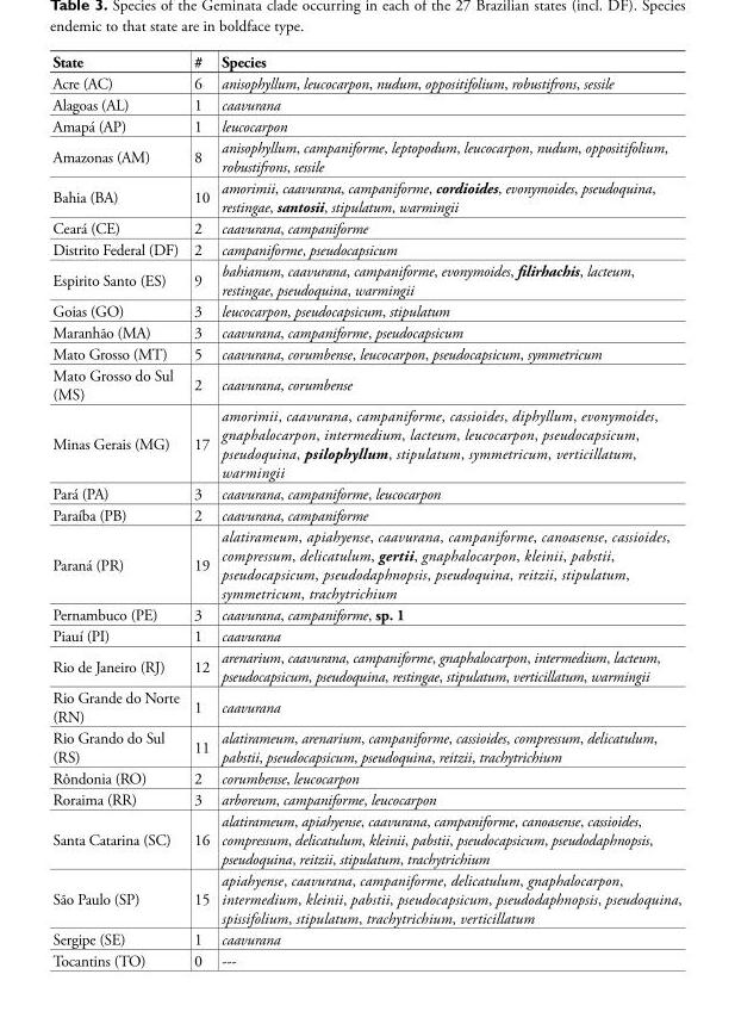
<table><thead><tr><td>State</td><td>#</td><td>Species</td></tr></thead><tbody><tr><td>Acre (AC)</td><td>6</td><td>anisophyllum, leucocarpon, nudum, oppositifolium, robustifrons, sessile</td></tr><tr><td>Alagoas (AL)</td><td>1</td><td>caavurana</td></tr><tr><td>Amapá (AP)</td><td>1</td><td>leucocarpon</td></tr><tr><td>Amazonas (AM)</td><td>8</td><td>anisophyllum, campaniforme, leptopodum, leucocarpon, nudum, oppositifolium, robustifrons, sessile</td></tr><tr><td>Bahia (BA)</td><td>10</td><td>amorimii, caavurana, campaniforme, cordioides, evonymoides, pseudoquina, restingae, santosii, stipulatum, warmingii</td></tr><tr><td>Ceará (CE)</td><td>2</td><td>caavurana, campaniforme</td></tr><tr><td>Distrito Federal (DF)</td><td>2</td><td>campaniforme, pseudocapsicum</td></tr><tr><td>Espirito Santo (ES)</td><td>9</td><td>bahianum, caavurana, campaniforme, evonymoides, fi lirhachis, lacteum, restingae, pseudoquina, warmingii</td></tr><tr><td>Goias (GO)</td><td>3</td><td>leucocarpon, pseudocapsicum, stipulatum</td></tr><tr><td>Maranhão (MA)</td><td>3</td><td>caavurana, campaniforme, pseudocapsicum</td></tr><tr><td>Mato Grosso (MT)</td><td>5</td><td>caavurana, corumbense, leucocarpon, pseudocapsicum, symmetricum</td></tr><tr><td>Mato Grosso do Sul (MS)</td><td>2</td><td>caavurana, corumbense</td></tr><tr><td>Minas Gerais (MG)</td><td>17</td><td>amorimii, caavurana, campaniforme, cassioides, diphyllum, evonymoides, gnaphalocarpon, intermedium, lacteum, leucocarpon, pseudocapsicum, pseudoquina, psilophyllum, stipulatum, symmetricum, verticillatum, warmingii</td></tr><tr><td>Pará (PA)</td><td>3</td><td>caavurana, campaniforme, leucocarpon</td></tr><tr><td>Paraíba (PB)</td><td>2</td><td>caavurana, campaniforme</td></tr><tr><td>Paraná (PR)</td><td>19</td><td>alatirameum, apiahyense, caavurana, campaniforme, canoasense, cassioides, compressum, delicatulum, gertii, gnaphalocarpon, kleinii, pabstii, pseudocapsicum, pseudodaphnopsis, pseudoquina, reitzii, stipulatum, symmetricum, trachytrichium</td></tr><tr><td>Pernambuco (PE)</td><td>3</td><td>caavurana, campaniforme, sp. 1</td></tr><tr><td>Piauí (PI)</td><td>1</td><td>caavurana</td></tr><tr><td>Rio de Janeiro (RJ)</td><td>12</td><td>arenarium, caavurana, campaniforme, gnaphalocarpon, intermedium, lacteum, pseudocapsicum, pseudoquina, restingae, stipulatum, verticillatum, warmingii</td></tr><tr><td>Rio Grande do Norte (RN)</td><td>1</td><td>caavurana</td></tr><tr><td>Rio Grando do Sul (RS)</td><td>11</td><td>alatirameum, arenarium, campaniforme, cassioides, compressum, delicatulum, pabstii, pseudocapsicum, pseudoquina, reitzii, trachytrichium</td></tr><tr><td>Rôndonia (RO)</td><td>2</td><td>corumbense, leucocarpon</td></tr><tr><td>Roraima (RR)</td><td>3</td><td>arboreum, campaniforme, leucocarpon</td></tr><tr><td>Santa Catarina (SC)</td><td>16</td><td>alatirameum, apiahyense, caavurana, campaniforme, canoasense, cassioides, compressum, delicatulum, kleinii, pabstii, pseudocapsicum, pseudodaphnopsis, pseudoquina, reitzii, stipulatum, trachytrichium</td></tr><tr><td>São Paulo (SP)</td><td>15</td><td>apiahyense, caavurana, campaniforme, delicatulum, gnaphalocarpon, intermedium, kleinii, pabstii, pseudocapsicum, pseudodaphnopsis, pseudoquina, spissifolium, stipulatum, trachytrichium, verticillatum</td></tr><tr><td>Sergipe (SE)</td><td>1</td><td>caavurana</td></tr><tr><td>Tocantins (TO)</td><td>0</td><td>---</td></tr></tbody></table>